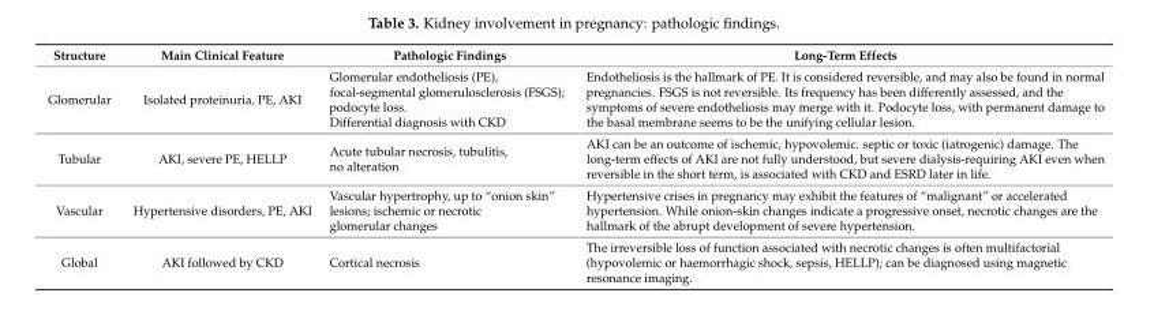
<table><thead><tr><td>Structure</td><td>Main Clinical Feature</td><td>Pathologic Findings</td><td>Long-Term Effects</td></tr></thead><tbody><tr><td>Glomerular</td><td>Isolated proteinuria, PE, AKI</td><td>Glomerular endotheliosis (PE), focal-segmental glomerulosclerosis (FSGS); podocyte loss. Differential diagnosis with CKD</td><td>Endotheliosis is the hallmark of PE. It is considered reversible, and may also be found in normal pregnancies. FSGS is not reversible. Its frequency has been differently assessed, and the symptoms of severe endotheliosis may merge with it. Podocyte loss, with permanent damage to the basal membrane seems to be the unifying cellular lesion.</td></tr><tr><td>Tubular</td><td>AKI, severe PE, HELLP</td><td>Acute tubular necrosis, tubulitis, no alteration</td><td>AKI can be an outcome of ischemic, hypovolemic. septic or toxic (iatrogenic) damage. The long-term effects of AKI are not fully understood, but severe dialysis-requiring AKI even when reversible in the short term, is associated with CKD and ESRD later in life.</td></tr><tr><td>Vascular</td><td>Hypertensive disorders, PE, AKI</td><td>Vascular hypertrophy, up to “onion skin” lesions; ischemic or necrotic glomerular changes</td><td>Hypertensive crises in pregnancy may exhibit the features of “malignant” or accelerated hypertension. While onion-skin changes indicate a progressive onset, necrotic changes are the hallmark of the abrupt development of severe hypertension.</td></tr><tr><td>Global</td><td>AKI followed by CKD</td><td>Cortical necrosis</td><td>The irreversible loss of function associated with necrotic changes is often multifactorial (hypovolemic or haemorrhagic shock, sepsis, HELLP); can be diagnosed using magnetic resonance imaging.</td></tr></tbody></table>